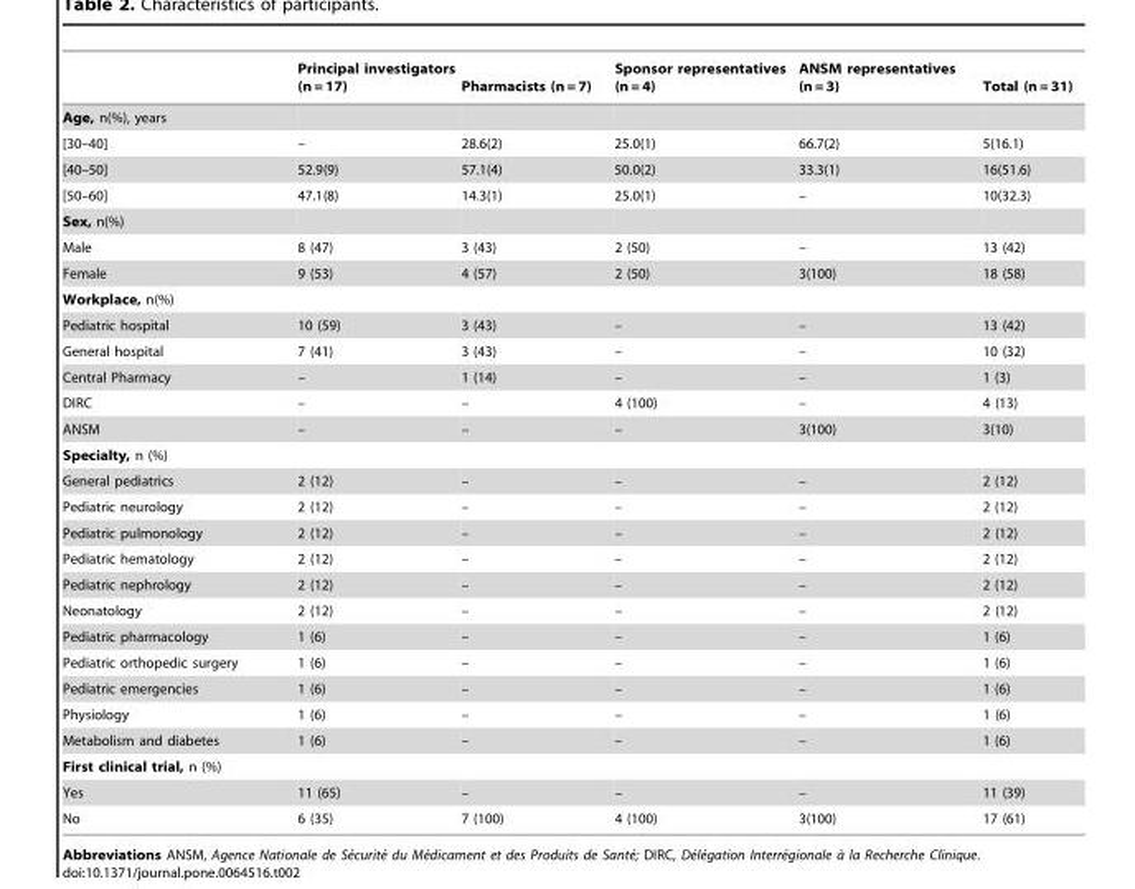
<table><thead><tr><td></td><td>Principal investigators (n = 17)</td><td>Pharmacists (n = 7)</td><td>Sponsor representatives (n = 4)</td><td>ANSM representatives (n = 3)</td><td>Total (n = 31)</td></tr></thead><tbody><tr><td colspan="6">Age, n(%), years</td></tr><tr><td>[30–40]</td><td>–</td><td>28.6(2)</td><td>25.0(1)</td><td>66.7(2)</td><td>5(16.1)</td></tr><tr><td>[40–50]</td><td>52.9(9)</td><td>57.1(4)</td><td>50.0(2)</td><td>33.3(1)</td><td>16(51.6)</td></tr><tr><td>[50–60]</td><td>47.1(8)</td><td>14.3(1)</td><td>25.0(1)</td><td>–</td><td>10(32.3)</td></tr><tr><td colspan="6">Sex, n(%)</td></tr><tr><td>Male</td><td>8 (47)</td><td>3 (43)</td><td>2 (50)</td><td>–</td><td>13 (42)</td></tr><tr><td>Female</td><td>9 (53)</td><td>4 (57)</td><td>2 (50)</td><td>3(100)</td><td>18 (58)</td></tr><tr><td colspan="6">Workplace, n(%)</td></tr><tr><td>Pediatric hospital</td><td>10 (59)</td><td>3 (43)</td><td>–</td><td>–</td><td>13 (42)</td></tr><tr><td>General hospital</td><td>7 (41)</td><td>3 (43)</td><td>–</td><td>–</td><td>10 (32)</td></tr><tr><td>Central Pharmacy</td><td>–</td><td>1 (14)</td><td>–</td><td>–</td><td>1 (3)</td></tr><tr><td>DIRC</td><td>–</td><td>–</td><td>4 (100)</td><td>–</td><td>4 (13)</td></tr><tr><td>ANSM</td><td>–</td><td>–</td><td>–</td><td>3(100)</td><td>3(10)</td></tr><tr><td colspan="6">Specialty, n (%)</td></tr><tr><td>General pediatrics</td><td>2 (12)</td><td>–</td><td>–</td><td>–</td><td>2 (12)</td></tr><tr><td>Pediatric neurology</td><td>2 (12)</td><td>–</td><td>–</td><td>–</td><td>2 (12)</td></tr><tr><td>Pediatric pulmonology</td><td>2 (12)</td><td>–</td><td>–</td><td>–</td><td>2 (12)</td></tr><tr><td>Pediatric hematology</td><td>2 (12)</td><td>–</td><td>–</td><td>–</td><td>2 (12)</td></tr><tr><td>Pediatric nephrology</td><td>2 (12)</td><td>–</td><td>–</td><td>–</td><td>2 (12)</td></tr><tr><td>Neonatology</td><td>2 (12)</td><td>–</td><td>–</td><td>–</td><td>2 (12)</td></tr><tr><td>Pediatric pharmacology</td><td>1 (6)</td><td>–</td><td>–</td><td>–</td><td>1 (6)</td></tr><tr><td>Pediatric orthopedic surgery</td><td>1 (6)</td><td>–</td><td>–</td><td>–</td><td>1 (6)</td></tr><tr><td>Pediatric emergencies</td><td>1 (6)</td><td>–</td><td>–</td><td>–</td><td>1 (6)</td></tr><tr><td>Physiology</td><td>1 (6)</td><td>–</td><td>–</td><td>–</td><td>1 (6)</td></tr><tr><td>Metabolism and diabetes</td><td>1 (6)</td><td>–</td><td>–</td><td>–</td><td>1 (6)</td></tr><tr><td colspan="6">First clinical trial, n (%)</td></tr><tr><td>Yes</td><td>11 (65)</td><td>–</td><td>–</td><td>–</td><td>11 (39)</td></tr><tr><td>No</td><td>6 (35)</td><td>7 (100)</td><td>4 (100)</td><td>3(100)</td><td>17 (61)</td></tr></tbody></table>